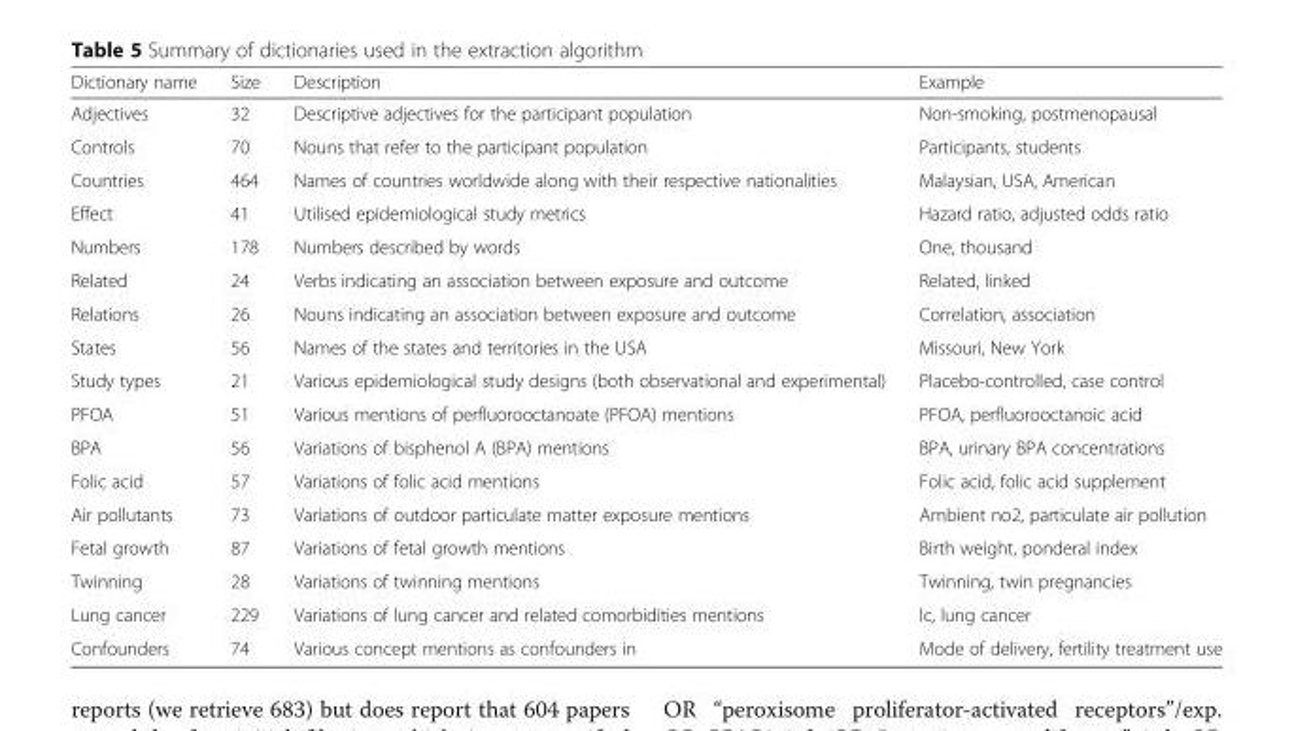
<table><thead><tr><td>Dictionary name</td><td>Size</td><td>Description</td><td>Example</td></tr></thead><tbody><tr><td>Adjectives</td><td>32</td><td>Descriptive adjectives for the participant population</td><td>Non-smoking, postmenopausal</td></tr><tr><td>Controls</td><td>70</td><td>Nouns that refer to the participant population</td><td>Participants, students</td></tr><tr><td>Countries</td><td>464</td><td>Names of countries worldwide along with their respective nationalities</td><td>Malaysian, USA, American</td></tr><tr><td>Effect</td><td>41</td><td>Utilised epidemiological study metrics</td><td>Hazard ratio, adjusted odds ratio</td></tr><tr><td>Numbers</td><td>178</td><td>Numbers described by words</td><td>One, thousand</td></tr><tr><td>Related</td><td>24</td><td>Verbs indicating an association between exposure and outcome</td><td>Related, linked</td></tr><tr><td>Relations</td><td>26</td><td>Nouns indicating an association between exposure and outcome</td><td>Correlation, association</td></tr><tr><td>States</td><td>56</td><td>Names of the states and territories in the USA</td><td>Missouri, New York</td></tr><tr><td>Study types</td><td>21</td><td>Various epidemiological study designs (both observational and experimental)</td><td>Placebo-controlled, case control</td></tr><tr><td>PFOA</td><td>51</td><td>Various mentions of perfluorooctanoate (PFOA) mentions</td><td>PFOA, perfluorooctanoic acid</td></tr><tr><td>BPA</td><td>56</td><td>Variations of bisphenol A (BPA) mentions</td><td>BPA, urinary BPA concentrations</td></tr><tr><td>Folic acid</td><td>57</td><td>Variations of folic acid mentions</td><td>Folic acid, folic acid supplement</td></tr><tr><td>Air pollutants</td><td>73</td><td>Variations of outdoor particulate matter exposure mentions</td><td>Ambient no2, particulate air pollution</td></tr><tr><td>Fetal growth</td><td>87</td><td>Variations of fetal growth mentions</td><td>Birth weight, ponderal index</td></tr><tr><td>Twinning</td><td>28</td><td>Variations of twinning mentions</td><td>Twinning, twin pregnancies</td></tr><tr><td>Lung cancer</td><td>229</td><td>Variations of lung cancer and related comorbidities mentions</td><td>lc, lung cancer</td></tr><tr><td>Confounders</td><td>74</td><td>Various concept mentions as confounders in</td><td>Mode of delivery, fertility treatment use</td></tr></tbody></table>